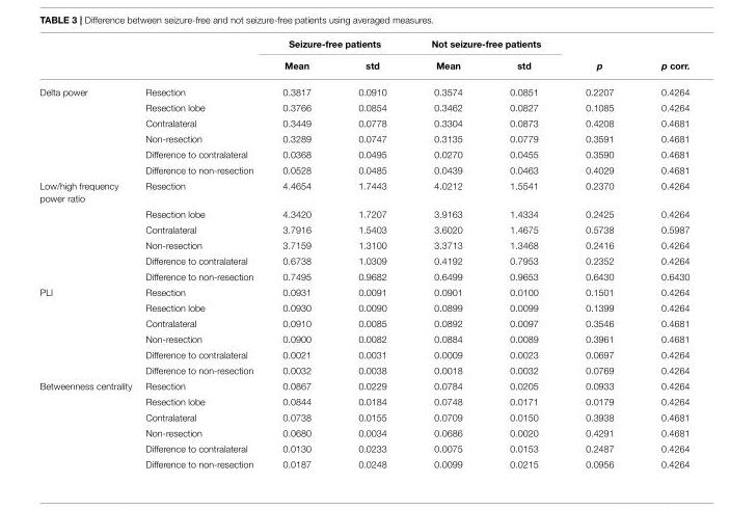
<table><thead><tr><td rowspan="2"></td><td rowspan="2"></td><td colspan="2">Seizure-free patients</td><td colspan="2">Not seizure-free patients</td><td rowspan="2">p</td><td rowspan="2">p corr.</td></tr><tr><td>Mean</td><td>std</td><td>Mean</td><td>std</td></tr></thead><tbody><tr><td rowspan="6">Delta power</td><td>Resection</td><td>0.3817</td><td>0.0910</td><td>0.3574</td><td>0.0851</td><td>0.2207</td><td>0.4264</td></tr><tr><td>Resection lobe</td><td>0.3766</td><td>0.0854</td><td>0.3462</td><td>0.0827</td><td>0.1085</td><td>0.4264</td></tr><tr><td>Contralateral</td><td>0.3449</td><td>0.0778</td><td>0.3304</td><td>0.0873</td><td>0.4208</td><td>0.4681</td></tr><tr><td>Non-resection</td><td>0.3289</td><td>0.0747</td><td>0.3135</td><td>0.0779</td><td>0.3591</td><td>0.4681</td></tr><tr><td>Difference to contralateral</td><td>0.0368</td><td>0.0495</td><td>0.0270</td><td>0.0455</td><td>0.3590</td><td>0.4681</td></tr><tr><td>Difference to non-resection</td><td>0.0528</td><td>0.0485</td><td>0.0439</td><td>0.0463</td><td>0.4029</td><td>0.4681</td></tr><tr><td rowspan="6">Low/high frequency power ratio</td><td>Resection</td><td>4.4654</td><td>1.7443</td><td>4.0212</td><td>1.5541</td><td>0.2370</td><td>0.4264</td></tr><tr><td>Resection lobe</td><td>4.3420</td><td>1.7207</td><td>3.9163</td><td>1.4334</td><td>0.2425</td><td>0.4264</td></tr><tr><td>Contralateral</td><td>3.7916</td><td>1.5403</td><td>3.6020</td><td>1.4675</td><td>0.5738</td><td>0.5987</td></tr><tr><td>Non-resection</td><td>3.7159</td><td>1.3100</td><td>3.3713</td><td>1.3468</td><td>0.2416</td><td>0.4264</td></tr><tr><td>Difference to contralateral</td><td>0.6738</td><td>1.0309</td><td>0.4192</td><td>0.7953</td><td>0.2352</td><td>0.4264</td></tr><tr><td>Difference to non-resection</td><td>0.7495</td><td>0.9682</td><td>0.6499</td><td>0.9653</td><td>0.6430</td><td>0.6430</td></tr><tr><td rowspan="6">PLI</td><td>Resection</td><td>0.0931</td><td>0.0091</td><td>0.0901</td><td>0.0100</td><td>0.1501</td><td>0.4264</td></tr><tr><td>Resection lobe</td><td>0.0930</td><td>0.0090</td><td>0.0899</td><td>0.0099</td><td>0.1399</td><td>0.4264</td></tr><tr><td>Contralateral</td><td>0.0910</td><td>0.0085</td><td>0.0892</td><td>0.0097</td><td>0.3546</td><td>0.4681</td></tr><tr><td>Non-resection</td><td>0.0900</td><td>0.0082</td><td>0.0884</td><td>0.0089</td><td>0.3961</td><td>0.4681</td></tr><tr><td>Difference to contralateral</td><td>0.0021</td><td>0.0031</td><td>0.0009</td><td>0.0023</td><td>0.0697</td><td>0.4264</td></tr><tr><td>Difference to non-resection</td><td>0.0032</td><td>0.0038</td><td>0.0018</td><td>0.0032</td><td>0.0769</td><td>0.4264</td></tr><tr><td rowspan="6">Betweenness centrality</td><td>Resection</td><td>0.0867</td><td>0.0229</td><td>0.0784</td><td>0.0205</td><td>0.0933</td><td>0.4264</td></tr><tr><td>Resection lobe</td><td>0.0844</td><td>0.0184</td><td>0.0748</td><td>0.0171</td><td>0.0179</td><td>0.4264</td></tr><tr><td>Contralateral</td><td>0.0738</td><td>0.0155</td><td>0.0709</td><td>0.0150</td><td>0.3938</td><td>0.4681</td></tr><tr><td>Non-resection</td><td>0.0680</td><td>0.0034</td><td>0.0686</td><td>0.0020</td><td>0.4291</td><td>0.4681</td></tr><tr><td>Difference to contralateral</td><td>0.0130</td><td>0.0233</td><td>0.0075</td><td>0.0153</td><td>0.2487</td><td>0.4264</td></tr><tr><td>Difference to non-resection</td><td>0.0187</td><td>0.0248</td><td>0.0099</td><td>0.0215</td><td>0.0956</td><td>0.4264</td></tr></tbody></table>